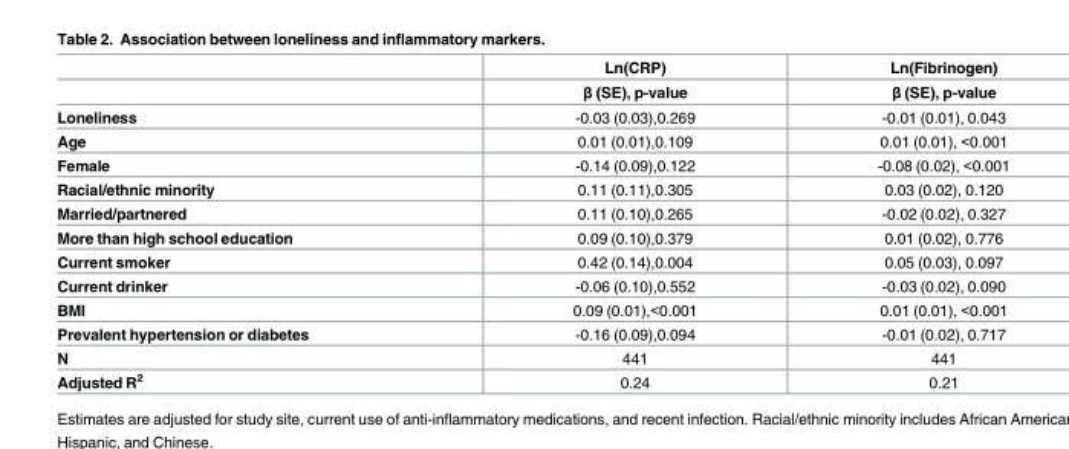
<table><thead><tr><td rowspan="2"></td><td rowspan="2">Ln(CRP) β (SE), p-value</td><td rowspan="2">Ln(Fibrinogen) β (SE), p-value</td></tr><tr></tr></thead><tbody><tr><td>Loneliness</td><td>-0.03 (0.03),0.269</td><td>-0.01 (0.01), 0.043</td></tr><tr><td>Age</td><td>0.01 (0.01),0.109</td><td>0.01 (0.01), &lt;0.001</td></tr><tr><td>Female</td><td>-0.14 (0.09),0.122</td><td>-0.08 (0.02), &lt;0.001</td></tr><tr><td>Racial/ethnic minority</td><td>0.11 (0.11),0.305</td><td>0.03 (0.02), 0.120</td></tr><tr><td>Married/partnered</td><td>0.11 (0.10),0.265</td><td>-0.02 (0.02), 0.327</td></tr><tr><td>More than high school education</td><td>0.09 (0.10),0.379</td><td>0.01 (0.02), 0.776</td></tr><tr><td>Current smoker</td><td>0.42 (0.14),0.004</td><td>0.05 (0.03), 0.097</td></tr><tr><td>Current drinker</td><td>-0.06 (0.10),0.552</td><td>-0.03 (0.02), 0.090</td></tr><tr><td>BMI</td><td>0.09 (0.01),&lt;0.001</td><td>0.01 (0.01), &lt;0.001</td></tr><tr><td>Prevalent hypertension or diabetes</td><td>-0.16 (0.09),0.094</td><td>-0.01 (0.02), 0.717</td></tr><tr><td>N</td><td>441</td><td>441</td></tr><tr><td>Adjusted R<sup>2</sup></td><td>0.24</td><td>0.21</td></tr></tbody></table>